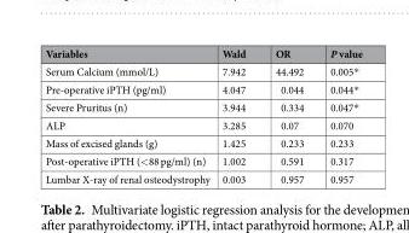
<table><thead><tr><td>Variables</td><td>Wald</td><td>OR</td><td>P value</td></tr></thead><tbody><tr><td>Serum Calcium (mmol/L)</td><td>7.942</td><td>44.492</td><td>0.005*</td></tr><tr><td>Pre-operative iPTH (pg/ml)</td><td>4.047</td><td>0.044</td><td>0.044*</td></tr><tr><td>Severe Pruritus (n)</td><td>3.944</td><td>0.334</td><td>0.047*</td></tr><tr><td>ALP</td><td>3.285</td><td>0.07</td><td>0.070</td></tr><tr><td>Mass of excised glands (g)</td><td>1.425</td><td>0.233</td><td>0.233</td></tr><tr><td>Post-operative iPTH (&lt;88 pg/ml) (n)</td><td>1.002</td><td>0.591</td><td>0.317</td></tr><tr><td>Lumbar X-ray of renal osteodystrophy</td><td>0.003</td><td>0.957</td><td>0.957</td></tr></tbody></table>